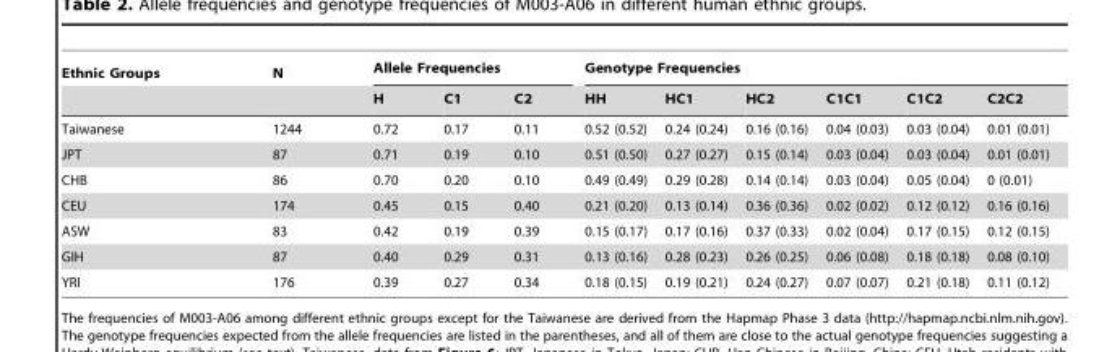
<table><thead><tr><td rowspan="2">Ethnic Groups</td><td rowspan="2">N</td><td colspan="3">Allele Frequencies</td><td colspan="6">Genotype Frequencies</td></tr><tr><td>H</td><td>C1</td><td>C2</td><td>HH</td><td>HC1</td><td>HC2</td><td>C1C1</td><td>C1C2</td><td>C2C2</td></tr></thead><tbody><tr><td>Taiwanese</td><td>1244</td><td>0.72</td><td>0.17</td><td>0.11</td><td>0.52 (0.52)</td><td>0.24 (0.24)</td><td>0.16 (0.16)</td><td>0.04 (0.03)</td><td>0.03 (0.04)</td><td>0.01 (0.01)</td></tr><tr><td>JPT</td><td>87</td><td>0.71</td><td>0.19</td><td>0.10</td><td>0.51 (0.50)</td><td>0.27 (0.27)</td><td>0.15 (0.14)</td><td>0.03 (0.04)</td><td>0.03 (0.04)</td><td>0.01 (0.01)</td></tr><tr><td>CHB</td><td>86</td><td>0.70</td><td>0.20</td><td>0.10</td><td>0.49 (0.49)</td><td>0.29 (0.28)</td><td>0.14 (0.14)</td><td>0.03 (0.04)</td><td>0.05 (0.04)</td><td>0 (0.01)</td></tr><tr><td>CEU</td><td>174</td><td>0.45</td><td>0.15</td><td>0.40</td><td>0.21 (0.20)</td><td>0.13 (0.14)</td><td>0.36 (0.36)</td><td>0.02 (0.02)</td><td>0.12 (0.12)</td><td>0.16 (0.16)</td></tr><tr><td>ASW</td><td>83</td><td>0.42</td><td>0.19</td><td>0.39</td><td>0.15 (0.17)</td><td>0.17 (0.16)</td><td>0.37 (0.33)</td><td>0.02 (0.04)</td><td>0.17 (0.15)</td><td>0.12 (0.15)</td></tr><tr><td>GIH</td><td>87</td><td>0.40</td><td>0.29</td><td>0.31</td><td>0.13 (0.16)</td><td>0.28 (0.23)</td><td>0.26 (0.25)</td><td>0.06 (0.08)</td><td>0.18 (0.18)</td><td>0.08 (0.10)</td></tr><tr><td>YRI</td><td>176</td><td>0.39</td><td>0.27</td><td>0.34</td><td>0.18 (0.15)</td><td>0.19 (0.21)</td><td>0.24 (0.27)</td><td>0.07 (0.07)</td><td>0.21 (0.18)</td><td>0.11 (0.12)</td></tr></tbody></table>